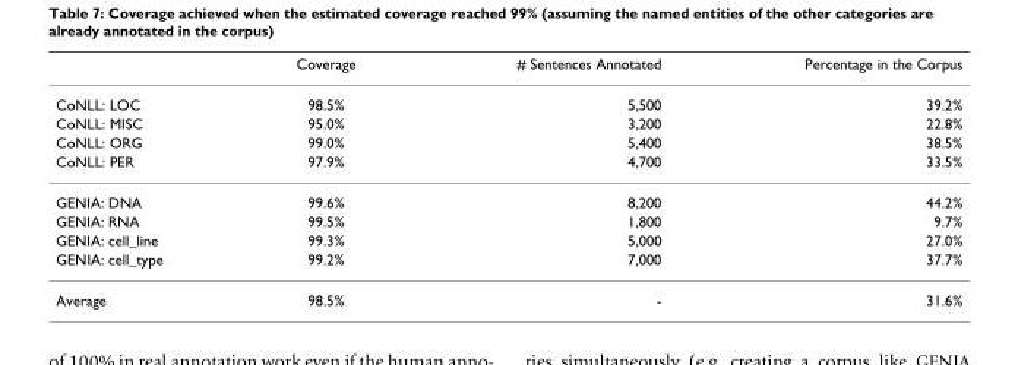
<table><thead><tr><td></td><td>Coverage</td><td># Sentences Annotated</td><td>Percentage in the Corpus</td></tr></thead><tbody><tr><td>CoNLL: LOC</td><td>98.5%</td><td>5,500</td><td>39.2%</td></tr><tr><td>CoNLL: MISC</td><td>95.0%</td><td>3,200</td><td>22.8%</td></tr><tr><td>CoNLL: ORG</td><td>99.0%</td><td>5,400</td><td>38.5%</td></tr><tr><td>CoNLL: PER</td><td>97.9%</td><td>4,700</td><td>33.5%</td></tr><tr><td>GENIA: DNA</td><td>99.6%</td><td>8,200</td><td>44.2%</td></tr><tr><td>GENIA: RNA</td><td>99.5%</td><td>1,800</td><td>9.7%</td></tr><tr><td>GENIA: cell_line</td><td>99.3%</td><td>5,000</td><td>27.0%</td></tr><tr><td>GENIA: cell_type</td><td>99.2%</td><td>7,000</td><td>37.7%</td></tr><tr><td>Average</td><td>98.5%</td><td>-</td><td>31.6%</td></tr></tbody></table>